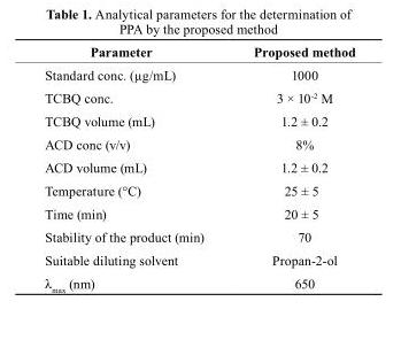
<table><thead><tr><td>Parameter</td><td>Proposed method</td></tr></thead><tbody><tr><td>Standard conc. (µg/mL)</td><td>1000</td></tr><tr><td>TCBQ conc.</td><td>3 × 10<sup>-2</sup> M</td></tr><tr><td>TCBQ volume (mL)</td><td>1.2 ± 0.2</td></tr><tr><td>ACD conc (v/v)</td><td>8%</td></tr><tr><td>ACD volume (mL)</td><td>1.2 ± 0.2</td></tr><tr><td>Temperature (°C)</td><td>25 ± 5</td></tr><tr><td>Time (min)</td><td>20 ± 5</td></tr><tr><td>Stability of the product (min)</td><td>70</td></tr><tr><td>Suitable diluting solvent</td><td>Propan-2-ol</td></tr><tr><td>λ<sub>max</sub> (nm)</td><td>650</td></tr></tbody></table>